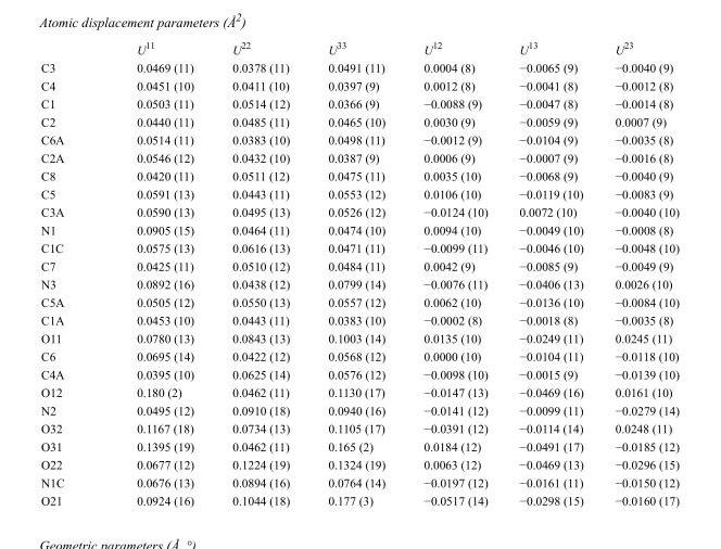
<table><thead><tr><td></td><td>U<sup>11</sup></td><td>U<sup>22</sup></td><td>U<sup>33</sup></td><td>U<sup>12</sup></td><td>U<sup>13</sup></td><td>U<sup>23</sup></td></tr></thead><tbody><tr><td>C3</td><td>0.0469 (11)</td><td>0.0378 (11)</td><td>0.0491 (11)</td><td>0.0004 (8)</td><td>−0.0065 (9)</td><td>−0.0040 (9)</td></tr><tr><td>C4</td><td>0.0451 (10)</td><td>0.0411 (10)</td><td>0.0397 (9)</td><td>0.0012 (8)</td><td>−0.0041 (8)</td><td>−0.0012 (8)</td></tr><tr><td>C1</td><td>0.0503 (11)</td><td>0.0514 (12)</td><td>0.0366 (9)</td><td>−0.0088 (9)</td><td>−0.0047 (8)</td><td>−0.0014 (8)</td></tr><tr><td>C2</td><td>0.0440 (11)</td><td>0.0485 (11)</td><td>0.0465 (10)</td><td>0.0030 (9)</td><td>−0.0059 (9)</td><td>0.0007 (9)</td></tr><tr><td>C6A</td><td>0.0514 (11)</td><td>0.0383 (10)</td><td>0.0498 (11)</td><td>−0.0012 (9)</td><td>−0.0104 (9)</td><td>−0.0035 (8)</td></tr><tr><td>C2A</td><td>0.0546 (12)</td><td>0.0432 (10)</td><td>0.0387 (9)</td><td>0.0006 (9)</td><td>−0.0007 (9)</td><td>−0.0016 (8)</td></tr><tr><td>C8</td><td>0.0420 (11)</td><td>0.0511 (12)</td><td>0.0475 (11)</td><td>0.0035 (10)</td><td>−0.0068 (9)</td><td>−0.0040 (9)</td></tr><tr><td>C5</td><td>0.0591 (13)</td><td>0.0443 (11)</td><td>0.0553 (12)</td><td>0.0106 (10)</td><td>−0.0119 (10)</td><td>−0.0083 (9)</td></tr><tr><td>C3A</td><td>0.0590 (13)</td><td>0.0495 (13)</td><td>0.0526 (12)</td><td>−0.0124 (10)</td><td>0.0072 (10)</td><td>−0.0040 (10)</td></tr><tr><td>N1</td><td>0.0905 (15)</td><td>0.0464 (11)</td><td>0.0474 (10)</td><td>0.0094 (10)</td><td>−0.0049 (10)</td><td>−0.0008 (8)</td></tr><tr><td>C1C</td><td>0.0575 (13)</td><td>0.0616 (13)</td><td>0.0471 (11)</td><td>−0.0099 (11)</td><td>−0.0046 (10)</td><td>−0.0048 (10)</td></tr><tr><td>C7</td><td>0.0425 (11)</td><td>0.0510 (12)</td><td>0.0484 (11)</td><td>0.0042 (9)</td><td>−0.0085 (9)</td><td>−0.0049 (9)</td></tr><tr><td>N3</td><td>0.0892 (16)</td><td>0.0438 (12)</td><td>0.0799 (14)</td><td>−0.0076 (11)</td><td>−0.0406 (13)</td><td>0.0026 (10)</td></tr><tr><td>C5A</td><td>0.0505 (12)</td><td>0.0550 (13)</td><td>0.0557 (12)</td><td>0.0062 (10)</td><td>−0.0136 (10)</td><td>−0.0084 (10)</td></tr><tr><td>C1A</td><td>0.0453 (10)</td><td>0.0443 (11)</td><td>0.0383 (10)</td><td>−0.0002 (8)</td><td>−0.0018 (8)</td><td>−0.0035 (8)</td></tr><tr><td>O11</td><td>0.0780 (13)</td><td>0.0843 (13)</td><td>0.1003 (14)</td><td>0.0135 (10)</td><td>−0.0249 (11)</td><td>0.0245 (11)</td></tr><tr><td>C6</td><td>0.0695 (14)</td><td>0.0422 (12)</td><td>0.0568 (12)</td><td>0.0000 (10)</td><td>−0.0104 (11)</td><td>−0.0118 (10)</td></tr><tr><td>C4A</td><td>0.0395 (10)</td><td>0.0625 (14)</td><td>0.0576 (12)</td><td>−0.0098 (10)</td><td>−0.0015 (9)</td><td>−0.0139 (10)</td></tr><tr><td>O12</td><td>0.180 (2)</td><td>0.0462 (11)</td><td>0.1130 (17)</td><td>−0.0147 (13)</td><td>−0.0469 (16)</td><td>0.0161 (10)</td></tr><tr><td>N2</td><td>0.0495 (12)</td><td>0.0910 (18)</td><td>0.0940 (16)</td><td>−0.0141 (12)</td><td>−0.0099 (11)</td><td>−0.0279 (14)</td></tr><tr><td>O32</td><td>0.1167 (18)</td><td>0.0734 (13)</td><td>0.1105 (17)</td><td>−0.0391 (12)</td><td>−0.0114 (14)</td><td>0.0248 (11)</td></tr><tr><td>O31</td><td>0.1395 (19)</td><td>0.0462 (11)</td><td>0.165 (2)</td><td>0.0184 (12)</td><td>−0.0491 (17)</td><td>−0.0185 (12)</td></tr><tr><td>O22</td><td>0.0677 (12)</td><td>0.1224 (19)</td><td>0.1324 (19)</td><td>0.0063 (12)</td><td>−0.0469 (13)</td><td>−0.0296 (15)</td></tr><tr><td>N1C</td><td>0.0676 (13)</td><td>0.0894 (16)</td><td>0.0764 (14)</td><td>−0.0197 (12)</td><td>−0.0161 (11)</td><td>−0.0150 (12)</td></tr><tr><td>O21</td><td>0.0924 (16)</td><td>0.1044 (18)</td><td>0.177 (3)</td><td>−0.0517 (14)</td><td>−0.0298 (15)</td><td>−0.0160 (17)</td></tr></tbody></table>